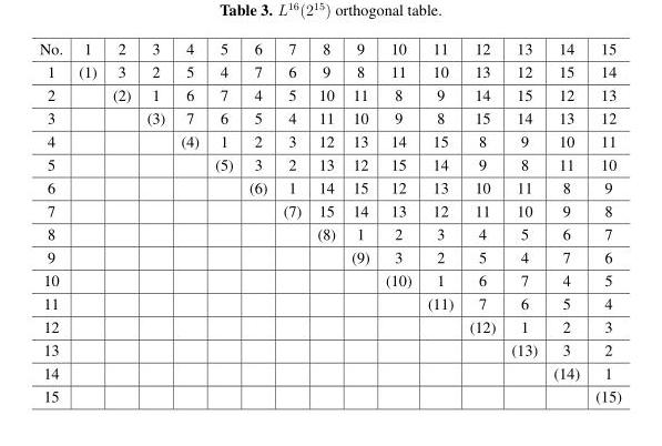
<table><tbody><tr><td>No.</td><td>1</td><td>2</td><td>3</td><td>4</td><td>5</td><td>6</td><td>7</td><td>8</td><td>9</td><td>10</td><td>11</td><td>12</td><td>13</td><td>14</td><td>15</td></tr><tr><td>1</td><td>(1)</td><td>3</td><td>2</td><td>5</td><td>4</td><td>7</td><td>6</td><td>9</td><td>8</td><td>11</td><td>10</td><td>13</td><td>12</td><td>15</td><td>14</td></tr><tr><td>2</td><td></td><td>(2)</td><td>1</td><td>6</td><td>7</td><td>4</td><td>5</td><td>10</td><td>11</td><td>8</td><td>9</td><td>14</td><td>15</td><td>12</td><td>13</td></tr><tr><td>3</td><td></td><td></td><td>(3)</td><td>7</td><td>6</td><td>5</td><td>4</td><td>11</td><td>10</td><td>9</td><td>8</td><td>15</td><td>14</td><td>13</td><td>12</td></tr><tr><td>4</td><td></td><td></td><td></td><td>(4)</td><td>1</td><td>2</td><td>3</td><td>12</td><td>13</td><td>14</td><td>15</td><td>8</td><td>9</td><td>10</td><td>11</td></tr><tr><td>5</td><td></td><td></td><td></td><td></td><td>(5)</td><td>3</td><td>2</td><td>13</td><td>12</td><td>15</td><td>14</td><td>9</td><td>8</td><td>11</td><td>10</td></tr><tr><td>6</td><td></td><td></td><td></td><td></td><td></td><td>(6)</td><td>1</td><td>14</td><td>15</td><td>12</td><td>13</td><td>10</td><td>11</td><td>8</td><td>9</td></tr><tr><td>7</td><td></td><td></td><td></td><td></td><td></td><td></td><td>(7)</td><td>15</td><td>14</td><td>13</td><td>12</td><td>11</td><td>10</td><td>9</td><td>8</td></tr><tr><td>8</td><td></td><td></td><td></td><td></td><td></td><td></td><td></td><td>(8)</td><td>1</td><td>2</td><td>3</td><td>4</td><td>5</td><td>6</td><td>7</td></tr><tr><td>9</td><td></td><td></td><td></td><td></td><td></td><td></td><td></td><td></td><td>(9)</td><td>3</td><td>2</td><td>5</td><td>4</td><td>7</td><td>6</td></tr><tr><td>10</td><td></td><td></td><td></td><td></td><td></td><td></td><td></td><td></td><td></td><td>(10)</td><td>1</td><td>6</td><td>7</td><td>4</td><td>5</td></tr><tr><td>11</td><td></td><td></td><td></td><td></td><td></td><td></td><td></td><td></td><td></td><td></td><td>(11)</td><td>7</td><td>6</td><td>5</td><td>4</td></tr><tr><td>12</td><td></td><td></td><td></td><td></td><td></td><td></td><td></td><td></td><td></td><td></td><td></td><td>(12)</td><td>1</td><td>2</td><td>3</td></tr><tr><td>13</td><td></td><td></td><td></td><td></td><td></td><td></td><td></td><td></td><td></td><td></td><td></td><td></td><td>(13)</td><td>3</td><td>2</td></tr><tr><td>14</td><td></td><td></td><td></td><td></td><td></td><td></td><td></td><td></td><td></td><td></td><td></td><td></td><td></td><td>(14)</td><td>1</td></tr><tr><td>15</td><td></td><td></td><td></td><td></td><td></td><td></td><td></td><td></td><td></td><td></td><td></td><td></td><td></td><td></td><td>(15)</td></tr></tbody></table>